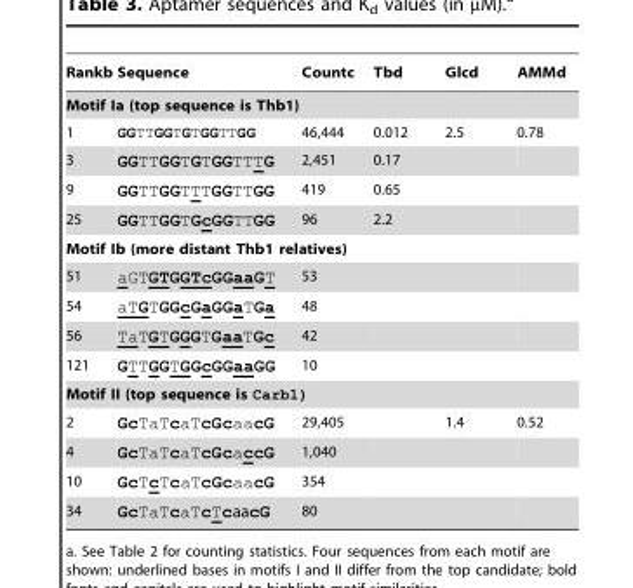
<table><thead><tr><td>Rankb</td><td>Sequence</td><td>Countc</td><td>Tbd</td><td>Glcd</td><td>AMMd</td></tr></thead><tbody><tr><td colspan="6">Motif Ia (top sequence is Thb1)</td></tr><tr><td>1</td><td>GGTTGGTGTGGTTGG</td><td>46,444</td><td>0.012</td><td>2.5</td><td>0.78</td></tr><tr><td>3</td><td>GGTTGGTGTGGTTTG</td><td>2,451</td><td>0.17</td><td></td><td></td></tr><tr><td>9</td><td>GGTTGGTTTGGTTGG</td><td>419</td><td>0.65</td><td></td><td></td></tr><tr><td>25</td><td>GGTTGGTGcGGTTGG</td><td>96</td><td>2.2</td><td></td><td></td></tr><tr><td colspan="6">Motif Ib (more distant Thb1 relatives)</td></tr><tr><td>51</td><td>aGTGTGGTcGGaaGT</td><td>53</td><td></td><td></td><td></td></tr><tr><td>54</td><td>aTGTGGcGaGGaTGa</td><td>48</td><td></td><td></td><td></td></tr><tr><td>56</td><td>TaTGTGGGTGaaTGc</td><td>42</td><td></td><td></td><td></td></tr><tr><td>121</td><td>GTTGGTGGcGGaaGG</td><td>10</td><td></td><td></td><td></td></tr><tr><td colspan="6">Motif II (top sequence is Carb1)</td></tr><tr><td>2</td><td>GcTaTcaTcGcaacG</td><td>29,405</td><td></td><td>1.4</td><td>0.52</td></tr><tr><td>4</td><td>GcTaTcaTcGcaccG</td><td>1,040</td><td></td><td></td><td></td></tr><tr><td>10</td><td>GcTcTcaTcGcaacG</td><td>354</td><td></td><td></td><td></td></tr><tr><td>34</td><td>GcTaTcaTcTcaacG</td><td>80</td><td></td><td></td><td></td></tr></tbody></table>